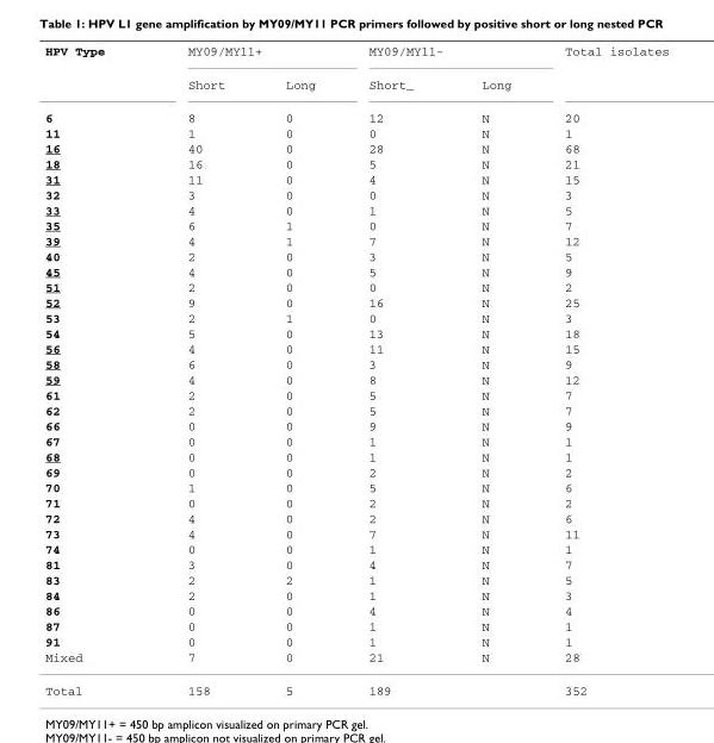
<table><thead><tr><td rowspan="38">HPV Type 6 11 16 18 31 32 33 35 39 40 45 51 52 53 54 56 58 59 61 62 66 67 68 69 70 71 72 73 74 81 83 84 86 87 91 Mixed</td><td colspan="2">MY09/MY11+</td><td colspan="2">MY09/MY11-</td><td rowspan="38">Total isolates 20 1 68 21 15 3 5 7 12 5 9 2 25 3 18 15 9 12 7 7 9 1 1 2 6 2 6 11 1 7 5 3 4 1 1 28</td></tr><tr><td rowspan="37">Short 8 1 40 16 11 3 4 6 4 2 4 2 9 2 5 4 6 4 2 2 0 0 0 0 1 0 4 4 0 3 2 2 0 0 0 7</td><td rowspan="37">Long 0 0 0 0 0 0 0 1 1 0 0 0 0 1 0 0 0 0 0 0 0 0 0 0 0 0 0 0 0 0 2 0 0 0 0 0</td><td rowspan="37">Short_ 12 0 28 5 4 0 1 0 7 3 5 0 16 0 13 11 3 8 5 5 9 1 1 2 5 2 2 7 1 4 1 1 4 1 1 21</td><td rowspan="37">Long N N N N N N N N N N N N N N N N N N N N N N N N N N N N N N N N N N N N</td></tr><tr></tr><tr></tr><tr></tr><tr></tr><tr></tr><tr></tr><tr></tr><tr></tr><tr></tr><tr></tr><tr></tr><tr></tr><tr></tr><tr></tr><tr></tr><tr></tr><tr></tr><tr></tr><tr></tr><tr></tr><tr></tr><tr></tr><tr></tr><tr></tr><tr></tr><tr></tr><tr></tr><tr></tr><tr></tr><tr></tr><tr></tr><tr></tr><tr></tr><tr></tr><tr></tr><tr></tr></thead><tbody><tr><td>Total</td><td>158</td><td>5</td><td>189</td><td></td><td>352</td></tr></tbody></table>